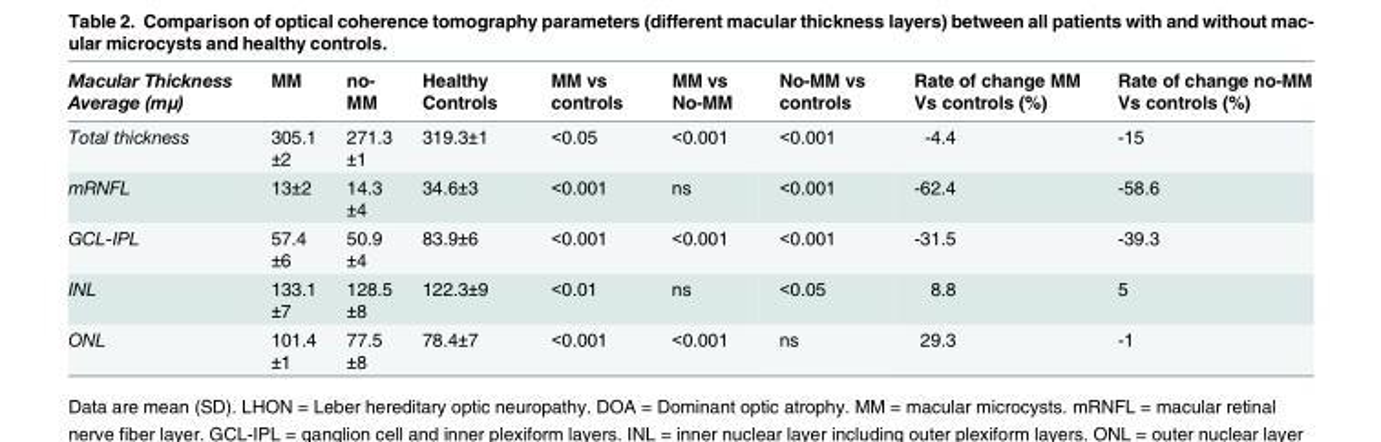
<table><thead><tr><td>Macular Thickness Average (mμ)</td><td>MM</td><td>no- MM</td><td>Healthy Controls</td><td>MM vs controls</td><td>MM vs No-MM</td><td>No-MM vs controls</td><td>Rate of change MM Vs controls (%)</td><td>Rate of change no-MM Vs controls (%)</td></tr></thead><tbody><tr><td>Total thickness</td><td>305.1 ±2</td><td>271.3 ±1</td><td>319.3±1</td><td>&lt;0.05</td><td>&lt;0.001</td><td>&lt;0.001</td><td>-4.4</td><td>-15</td></tr><tr><td>mRNFL</td><td>13±2</td><td>14.3 ±4</td><td>34.6±3</td><td>&lt;0.001</td><td>ns</td><td>&lt;0.001</td><td>-62.4</td><td>-58.6</td></tr><tr><td>GCL-IPL</td><td>57.4 ±6</td><td>50.9 ±4</td><td>83.9±6</td><td>&lt;0.001</td><td>&lt;0.001</td><td>&lt;0.001</td><td>-31.5</td><td>-39.3</td></tr><tr><td>INL</td><td>133.1 ±7</td><td>128.5 ±8</td><td>122.3±9</td><td>&lt;0.01</td><td>ns</td><td>&lt;0.05</td><td>8.8</td><td>5</td></tr><tr><td>ONL</td><td>101.4 ±1</td><td>77.5 ±8</td><td>78.4±7</td><td>&lt;0.001</td><td>&lt;0.001</td><td>ns</td><td>29.3</td><td>-1</td></tr></tbody></table>